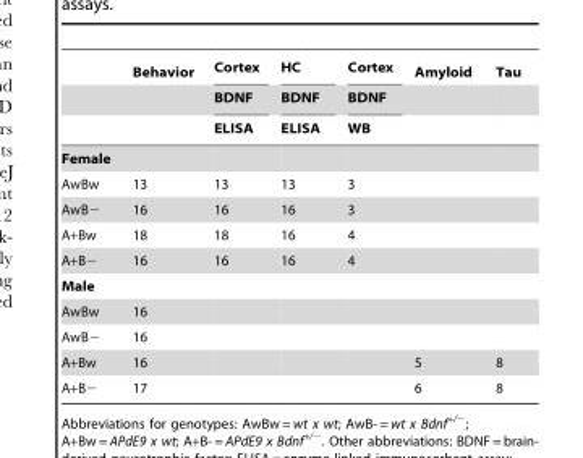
<table><thead><tr><td rowspan="3"></td><td rowspan="3">Behavior</td><td rowspan="3">Cortex BDNF ELISA</td><td rowspan="3">HC BDNF ELISA</td><td rowspan="3">Cortex BDNF WB</td><td rowspan="3">Amyloid</td><td rowspan="3">Tau</td></tr><tr></tr><tr></tr></thead><tbody><tr><td colspan="7">Female</td></tr><tr><td>AwBw</td><td>13</td><td>13</td><td>13</td><td>3</td><td></td><td></td></tr><tr><td>AwB−</td><td>16</td><td>16</td><td>16</td><td>3</td><td></td><td></td></tr><tr><td>A+Bw</td><td>18</td><td>18</td><td>16</td><td>4</td><td></td><td></td></tr><tr><td>A+B−</td><td>16</td><td>16</td><td>16</td><td>4</td><td></td><td></td></tr><tr><td colspan="7">Male</td></tr><tr><td>AwBw</td><td>16</td><td></td><td></td><td></td><td></td><td></td></tr><tr><td>AwB−</td><td>16</td><td></td><td></td><td></td><td></td><td></td></tr><tr><td>A+Bw</td><td>16</td><td></td><td></td><td></td><td>5</td><td>8</td></tr><tr><td>A+B−</td><td>17</td><td></td><td></td><td></td><td>6</td><td>8</td></tr></tbody></table>